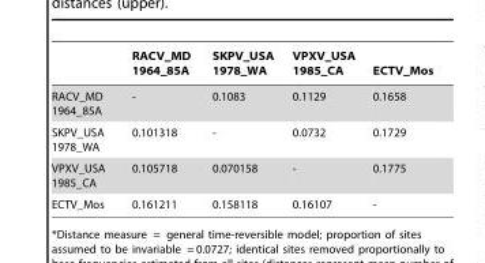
<table><thead><tr><td></td><td>RACV__MD 1964__85A</td><td>SKPV__USA 1978__WA</td><td>VPXV__USA 1985__CA</td><td>ECTV__Mos</td></tr></thead><tbody><tr><td>RACV_MD 1964_85A</td><td>-</td><td>0.1083</td><td>0.1129</td><td>0.1658</td></tr><tr><td>SKPV_USA 1978_WA</td><td>0.101318</td><td>-</td><td>0.0732</td><td>0.1729</td></tr><tr><td>VPXV_USA 1985_CA</td><td>0.105718</td><td>0.070158</td><td>-</td><td>0.1775</td></tr><tr><td>ECTV_Mos</td><td>0.161211</td><td>0.158118</td><td>0.16107</td><td>-</td></tr></tbody></table>